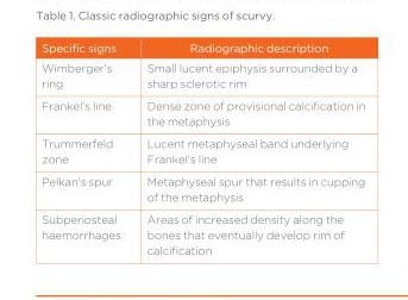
<table><thead><tr><td>Specific signs</td><td>Radiographic description</td></tr></thead><tbody><tr><td>Wimberger’s ring</td><td>Small lucent epiphysis surrounded by a sharp sclerotic rim</td></tr><tr><td>Frankel’s line</td><td>Dense zone of provisional calcification in the metaphysis</td></tr><tr><td>Trummerfeld zone</td><td>Lucent metaphyseal band underlying Frankel&#x27;s line</td></tr><tr><td>Pelkan’s spur</td><td>Metaphyseal spur that results in cupping of the metaphysis</td></tr><tr><td>Subperiosteal haemorrhages</td><td>Areas of increased density along the bones that eventually develop rim of calcification</td></tr></tbody></table>